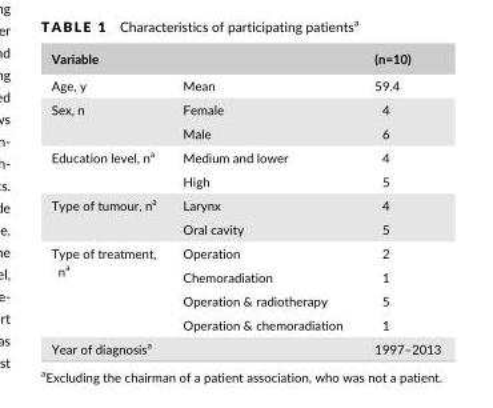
<table><thead><tr><td>Variable</td><td></td><td>(n=10)</td></tr></thead><tbody><tr><td>Age, y</td><td>Mean</td><td>59.4</td></tr><tr><td rowspan="2">Sex, n</td><td>Female</td><td>4</td></tr><tr><td>Male</td><td>6</td></tr><tr><td rowspan="2">Education level, n<sup>a</sup></td><td>Medium and lower</td><td>4</td></tr><tr><td>High</td><td>5</td></tr><tr><td rowspan="2">Type of tumour, n<sup>a</sup></td><td>Larynx</td><td>4</td></tr><tr><td>Oral cavity</td><td>5</td></tr><tr><td rowspan="4">Type of treatment, n<sup>a</sup></td><td>Operation</td><td>2</td></tr><tr><td>Chemoradiation</td><td>1</td></tr><tr><td>Operation &amp; radiotherapy</td><td>5</td></tr><tr><td>Operation &amp; chemoradiation</td><td>1</td></tr><tr><td>Year of diagnosis<sup>a</sup></td><td></td><td>1997–2013</td></tr></tbody></table>